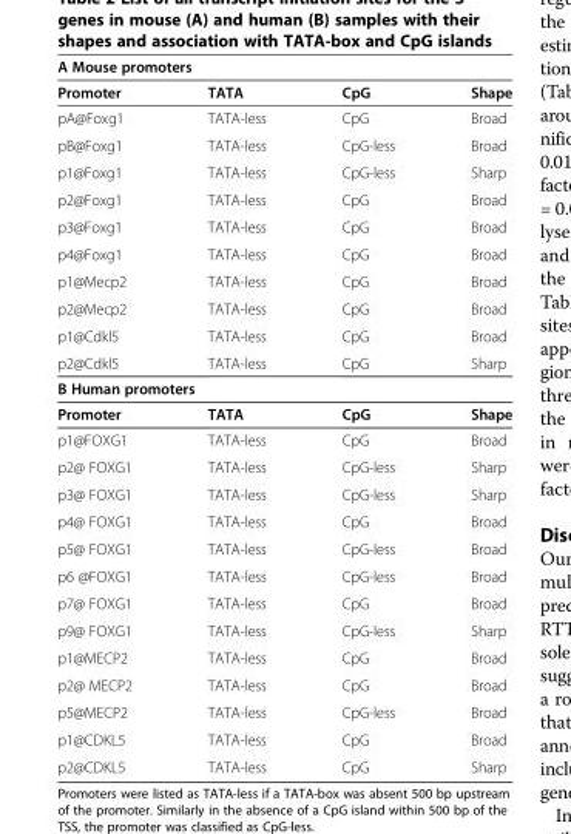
<table><thead><tr><td colspan="4">A Mouse promoters</td></tr><tr><td>Promoter</td><td>TATA</td><td>CpG</td><td>Shape</td></tr></thead><tbody><tr><td>pA@Foxg1</td><td>TATA-less</td><td>CpG</td><td>Broad</td></tr><tr><td>pB@Foxg1</td><td>TATA-less</td><td>CpG-less</td><td>Broad</td></tr><tr><td>p1@Foxg1</td><td>TATA-less</td><td>CpG-less</td><td>Sharp</td></tr><tr><td>p2@Foxg1</td><td>TATA-less</td><td>CpG</td><td>Broad</td></tr><tr><td>p3@Foxg1</td><td>TATA-less</td><td>CpG</td><td>Broad</td></tr><tr><td>p4@Foxg1</td><td>TATA-less</td><td>CpG</td><td>Broad</td></tr><tr><td>p1@Mecp2</td><td>TATA-less</td><td>CpG</td><td>Broad</td></tr><tr><td>p2@Mecp2</td><td>TATA-less</td><td>CpG</td><td>Broad</td></tr><tr><td>p1@Cdkl5</td><td>TATA-less</td><td>CpG</td><td>Broad</td></tr><tr><td>p2@Cdkl5</td><td>TATA-less</td><td>CpG</td><td>Sharp</td></tr><tr><td colspan="4">B Human promoters</td></tr><tr><td>Promoter</td><td>TATA</td><td>CpG</td><td>Shape</td></tr><tr><td>p1@FOXG1</td><td>TATA-less</td><td>CpG</td><td>Broad</td></tr><tr><td>p2@ FOXG1</td><td>TATA-less</td><td>CpG-less</td><td>Sharp</td></tr><tr><td>p3@ FOXG1</td><td>TATA-less</td><td>CpG-less</td><td>Sharp</td></tr><tr><td>p4@ FOXG1</td><td>TATA-less</td><td>CpG</td><td>Broad</td></tr><tr><td>p5@ FOXG1</td><td>TATA-less</td><td>CpG-less</td><td>Broad</td></tr><tr><td>p6 @FOXG1</td><td>TATA-less</td><td>CpG-less</td><td>Broad</td></tr><tr><td>p7@ FOXG1</td><td>TATA-less</td><td>CpG</td><td>Broad</td></tr><tr><td>p9@ FOXG1</td><td>TATA-less</td><td>CpG-less</td><td>Sharp</td></tr><tr><td>p1@MECP2</td><td>TATA-less</td><td>CpG</td><td>Broad</td></tr><tr><td>p2@ MECP2</td><td>TATA-less</td><td>CpG</td><td>Broad</td></tr><tr><td>p5@MECP2</td><td>TATA-less</td><td>CpG-less</td><td>Broad</td></tr><tr><td>p1@CDKL5</td><td>TATA-less</td><td>CpG</td><td>Broad</td></tr><tr><td>p2@CDKL5</td><td>TATA-less</td><td>CpG</td><td>Sharp</td></tr></tbody></table>